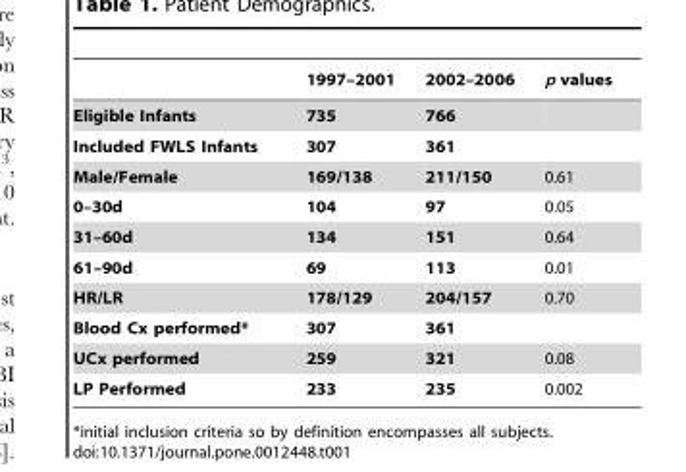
<table><thead><tr><td></td><td>1997–2001</td><td>2002–2006</td><td>p values</td></tr></thead><tbody><tr><td>Eligible Infants</td><td>735</td><td>766</td><td></td></tr><tr><td>Included FWLS Infants</td><td>307</td><td>361</td><td></td></tr><tr><td>Male/Female</td><td>169/138</td><td>211/150</td><td>0.61</td></tr><tr><td>0–30d</td><td>104</td><td>97</td><td>0.05</td></tr><tr><td>31–60d</td><td>134</td><td>151</td><td>0.64</td></tr><tr><td>61–90d</td><td>69</td><td>113</td><td>0.01</td></tr><tr><td>HR/LR</td><td>178/129</td><td>204/157</td><td>0.70</td></tr><tr><td>Blood Cx performed*</td><td>307</td><td>361</td><td></td></tr><tr><td>UCx performed</td><td>259</td><td>321</td><td>0.08</td></tr><tr><td>LP Performed</td><td>233</td><td>235</td><td>0.002</td></tr></tbody></table>